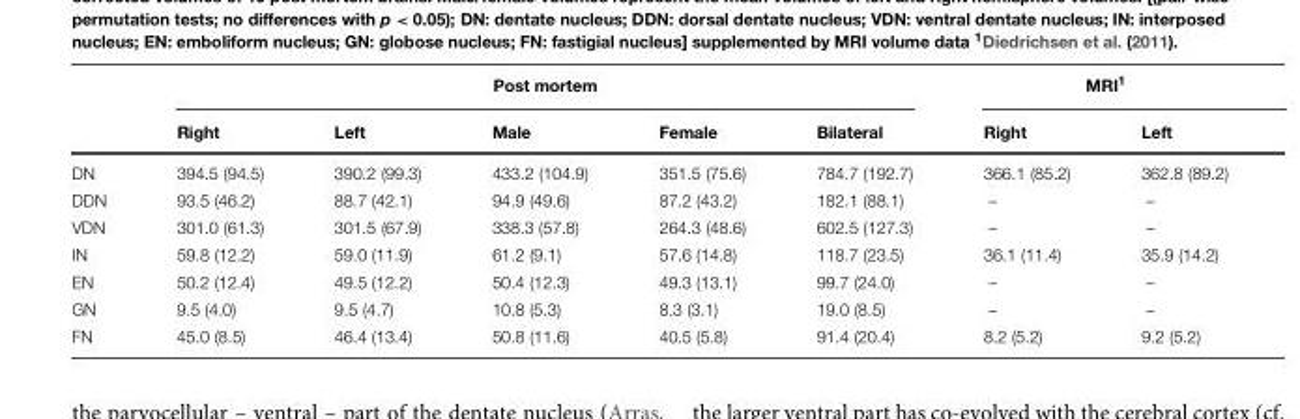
<table><thead><tr><td rowspan="2"></td><td colspan="5">Post mortem</td><td colspan="2">MRI<sup>1</sup></td></tr><tr><td>Right</td><td>Left</td><td>Male</td><td>Female</td><td>Bilateral</td><td>Right</td><td>Left</td></tr></thead><tbody><tr><td>DN</td><td>394.5 (94.5)</td><td>390.2 (99.3)</td><td>433.2 (104.9)</td><td>351.5 (75.6)</td><td>784.7 (192.7)</td><td>366.1 (85.2)</td><td>362.8 (89.2)</td></tr><tr><td>DDN</td><td>93.5 (46.2)</td><td>88.7 (42.1)</td><td>94.9 (49.6)</td><td>87.2 (43.2)</td><td>182.1 (88.1)</td><td>–</td><td>–</td></tr><tr><td>VDN</td><td>301.0 (61.3)</td><td>301.5 (67.9)</td><td>338.3 (57.8)</td><td>264.3 (48.6)</td><td>602.5 (127.3)</td><td>–</td><td>–</td></tr><tr><td>IN</td><td>59.8 (12.2)</td><td>59.0 (11.9)</td><td>61.2 (9.1)</td><td>57.6 (14.8)</td><td>118.7 (23.5)</td><td>36.1 (11.4)</td><td>35.9 (14.2)</td></tr><tr><td>EN</td><td>50.2 (12.4)</td><td>49.5 (12.2)</td><td>50.4 (12.3)</td><td>49.3 (13.1)</td><td>99.7 (24.0)</td><td>–</td><td>–</td></tr><tr><td>GN</td><td>9.5 (4.0)</td><td>9.5 (4.7)</td><td>10.8 (5.3)</td><td>8.3 (3.1)</td><td>19.0 (8.5)</td><td>–</td><td>–</td></tr><tr><td>FN</td><td>45.0 (8.5)</td><td>46.4 (13.4)</td><td>50.8 (11.6)</td><td>40.5 (5.8)</td><td>91.4 (20.4)</td><td>8.2 (5.2)</td><td>9.2 (5.2)</td></tr></tbody></table>